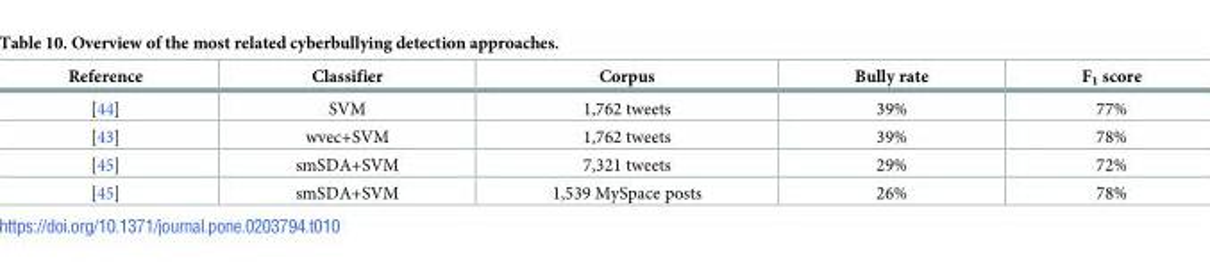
<table><thead><tr><td>Reference</td><td>Classifier</td><td>Corpus</td><td>Bully rate</td><td>F<sub>1</sub> score</td></tr></thead><tbody><tr><td>[44]</td><td>SVM</td><td>1,762 tweets</td><td>39%</td><td>77%</td></tr><tr><td>[43]</td><td>wvec+SVM</td><td>1,762 tweets</td><td>39%</td><td>78%</td></tr><tr><td>[45]</td><td>smSDA+SVM</td><td>7,321 tweets</td><td>29%</td><td>72%</td></tr><tr><td>[45]</td><td>smSDA+SVM</td><td>1,539 MySpace posts</td><td>26%</td><td>78%</td></tr></tbody></table>